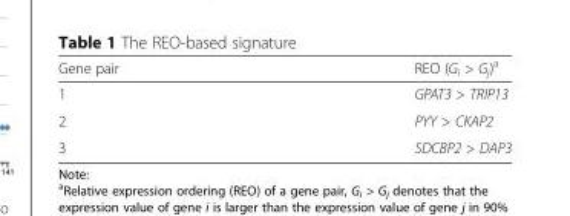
<table><thead><tr><td>Gene pair</td><td>REO (G<sub>i</sub> &gt; G<sub>j</sub>)<sup>a</sup></td></tr></thead><tbody><tr><td>1</td><td>GPAT3 &gt; TRIP13</td></tr><tr><td>2</td><td>PYY &gt; CKAP2</td></tr><tr><td>3</td><td>SDCBP2 &gt; DAP3</td></tr></tbody></table>